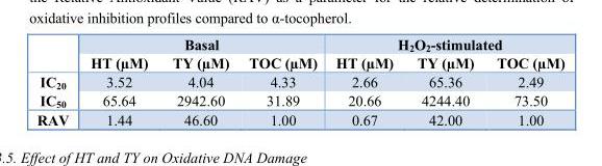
<table><thead><tr><td rowspan="2"></td><td colspan="3">Basal</td><td colspan="3">H<sub>2</sub>O<sub>2</sub>-stimulated</td></tr><tr><td>HT (µM)</td><td>TY (µM)</td><td>TOC (µM)</td><td>HT (µM)</td><td>TY (µM)</td><td>TOC (µM)</td></tr></thead><tbody><tr><td>IC<sub>20</sub></td><td>3.52</td><td>4.04</td><td>4.33</td><td>2.66</td><td>65.36</td><td>2.49</td></tr><tr><td>IC<sub>50</sub></td><td>65.64</td><td>2942.60</td><td>31.89</td><td>20.66</td><td>4244.40</td><td>73.50</td></tr><tr><td>RAV</td><td>1.44</td><td>46.60</td><td>1.00</td><td>0.67</td><td>42.00</td><td>1.00</td></tr></tbody></table>